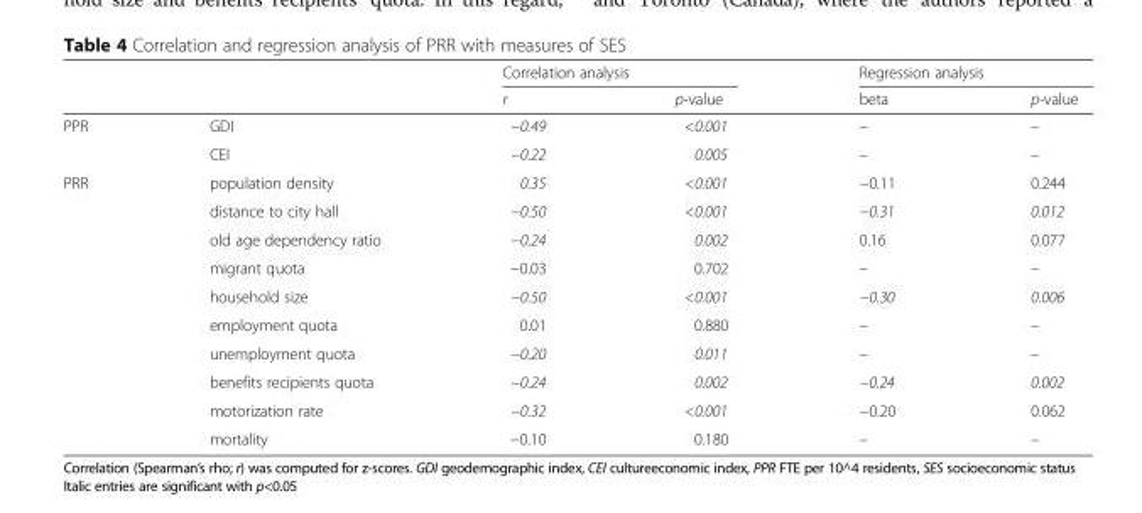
<table><thead><tr><td rowspan="2"></td><td rowspan="2"></td><td colspan="2">Correlation analysis</td><td colspan="2">Regression analysis</td></tr><tr><td>r</td><td>p-value</td><td>beta</td><td>p-value</td></tr></thead><tbody><tr><td rowspan="2">PPR</td><td>GDI</td><td>−0.49</td><td>&lt;0.001</td><td>–</td><td>–</td></tr><tr><td>CEI</td><td>−0.22</td><td>0.005</td><td>–</td><td>–</td></tr><tr><td rowspan="10">PRR</td><td>population density</td><td>0.35</td><td>&lt;0.001</td><td>−0.11</td><td>0.244</td></tr><tr><td>distance to city hall</td><td>−0.50</td><td>&lt;0.001</td><td>−0.31</td><td>0.012</td></tr><tr><td>old age dependency ratio</td><td>−0.24</td><td>0.002</td><td>0.16</td><td>0.077</td></tr><tr><td>migrant quota</td><td>−0.03</td><td>0.702</td><td>–</td><td>–</td></tr><tr><td>household size</td><td>−0.50</td><td>&lt;0.001</td><td>−0.30</td><td>0.006</td></tr><tr><td>employment quota</td><td>0.01</td><td>0.880</td><td>–</td><td>–</td></tr><tr><td>unemployment quota</td><td>−0.20</td><td>0.011</td><td>–</td><td>–</td></tr><tr><td>benefits recipients quota</td><td>−0.24</td><td>0.002</td><td>−0.24</td><td>0.002</td></tr><tr><td>motorization rate</td><td>−0.32</td><td>&lt;0.001</td><td>−0.20</td><td>0.062</td></tr><tr><td>mortality</td><td>−0.10</td><td>0.180</td><td>–</td><td>–</td></tr></tbody></table>